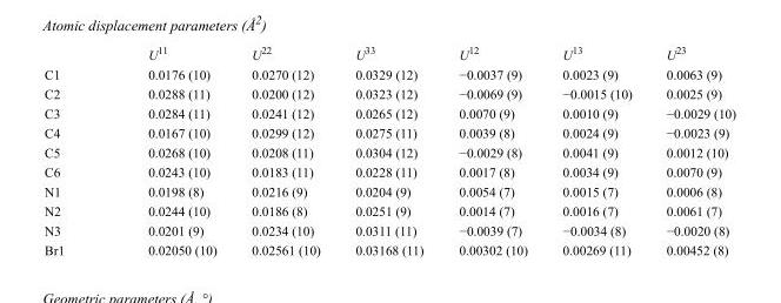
<table><thead><tr><td></td><td>U<sup>11</sup></td><td>U<sup>22</sup></td><td>U<sup>33</sup></td><td>U<sup>12</sup></td><td>U<sup>13</sup></td><td>U<sup>23</sup></td></tr></thead><tbody><tr><td>C1</td><td>0.0176 (10)</td><td>0.0270 (12)</td><td>0.0329 (12)</td><td>−0.0037 (9)</td><td>0.0023 (9)</td><td>0.0063 (9)</td></tr><tr><td>C2</td><td>0.0288 (11)</td><td>0.0200 (12)</td><td>0.0323 (12)</td><td>−0.0069 (9)</td><td>−0.0015 (10)</td><td>0.0025 (9)</td></tr><tr><td>C3</td><td>0.0284 (11)</td><td>0.0241 (12)</td><td>0.0265 (12)</td><td>0.0070 (9)</td><td>0.0010 (9)</td><td>−0.0029 (10)</td></tr><tr><td>C4</td><td>0.0167 (10)</td><td>0.0299 (12)</td><td>0.0275 (11)</td><td>0.0039 (8)</td><td>0.0024 (9)</td><td>−0.0023 (9)</td></tr><tr><td>C5</td><td>0.0268 (10)</td><td>0.0208 (11)</td><td>0.0304 (12)</td><td>−0.0029 (8)</td><td>0.0041 (9)</td><td>0.0012 (10)</td></tr><tr><td>C6</td><td>0.0243 (10)</td><td>0.0183 (11)</td><td>0.0228 (11)</td><td>0.0017 (8)</td><td>0.0034 (9)</td><td>0.0070 (9)</td></tr><tr><td>N1</td><td>0.0198 (8)</td><td>0.0216 (9)</td><td>0.0204 (9)</td><td>0.0054 (7)</td><td>0.0015 (7)</td><td>0.0006 (8)</td></tr><tr><td>N2</td><td>0.0244 (10)</td><td>0.0186 (8)</td><td>0.0251 (9)</td><td>0.0014 (7)</td><td>0.0016 (7)</td><td>0.0061 (7)</td></tr><tr><td>N3</td><td>0.0201 (9)</td><td>0.0234 (10)</td><td>0.0311 (11)</td><td>−0.0039 (7)</td><td>−0.0034 (8)</td><td>−0.0020 (8)</td></tr><tr><td>Br1</td><td>0.02050 (10)</td><td>0.02561 (10)</td><td>0.03168 (11)</td><td>0.00302 (10)</td><td>0.00269 (11)</td><td>0.00452 (8)</td></tr></tbody></table>